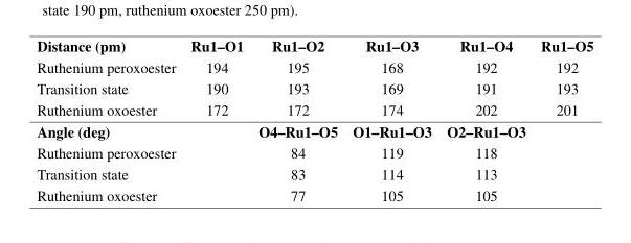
<table><thead><tr><td>Distance (pm)</td><td>Ru1–O1</td><td>Ru1–O2</td><td>Ru1–O3</td><td>Ru1–O4</td><td>Ru1–O5</td></tr></thead><tbody><tr><td>Ruthenium peroxoester</td><td>194</td><td>195</td><td>168</td><td>192</td><td>192</td></tr><tr><td>Transition state</td><td>190</td><td>193</td><td>169</td><td>191</td><td>193</td></tr><tr><td>Ruthenium oxoester</td><td>172</td><td>172</td><td>174</td><td>202</td><td>201</td></tr><tr><td>Angle (deg)</td><td></td><td>O4–Ru1–O5</td><td>O1–Ru1–O3</td><td>O2–Ru1–O3</td><td></td></tr><tr><td>Ruthenium peroxoester</td><td></td><td>84</td><td>119</td><td>118</td><td></td></tr><tr><td>Transition state</td><td></td><td>83</td><td>114</td><td>113</td><td></td></tr><tr><td>Ruthenium oxoester</td><td></td><td>77</td><td>105</td><td>105</td><td></td></tr></tbody></table>